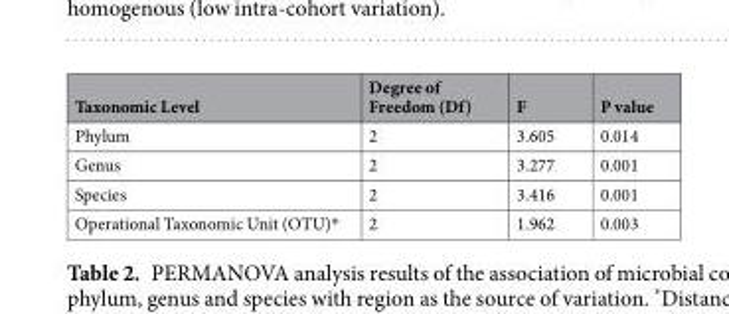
<table><thead><tr><td>Taxonomic Level</td><td>Degree of Freedom (Df)</td><td>F</td><td>P value</td></tr></thead><tbody><tr><td>Phylum</td><td>2</td><td>3.605</td><td>0.014</td></tr><tr><td>Genus</td><td>2</td><td>3.277</td><td>0.001</td></tr><tr><td>Species</td><td>2</td><td>3.416</td><td>0.001</td></tr><tr><td>Operational Taxonomic Unit (OTU)*</td><td>2</td><td>1.962</td><td>0.003</td></tr></tbody></table>